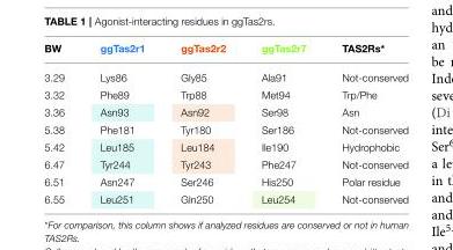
<table><thead><tr><td>BW</td><td>ggTas2r1</td><td>ggTas2r2</td><td>ggTas2r7</td><td>TAS2Rs*</td></tr></thead><tbody><tr><td>3.29</td><td>Lys86</td><td>Gly85</td><td>Ala91</td><td>Not-conserved</td></tr><tr><td>3.32</td><td>Phe89</td><td>Trp88</td><td>Met94</td><td>Trp/Phe</td></tr><tr><td>3.36</td><td>Asn93</td><td>Asn92</td><td>Ser98</td><td>Asn</td></tr><tr><td>5.38</td><td>Phe181</td><td>Tyr180</td><td>Ser186</td><td>Not-conserved</td></tr><tr><td>5.42</td><td>Leu185</td><td>Leu184</td><td>Ile190</td><td>Hydrophobic</td></tr><tr><td>6.47</td><td>Tyr244</td><td>Tyr243</td><td>Phe247</td><td>Not-conserved</td></tr><tr><td>6.51</td><td>Asn247</td><td>Ser246</td><td>His250</td><td>Polar residue</td></tr><tr><td>6.55</td><td>Leu251</td><td>Gln250</td><td>Leu254</td><td>Not-conserved</td></tr></tbody></table>